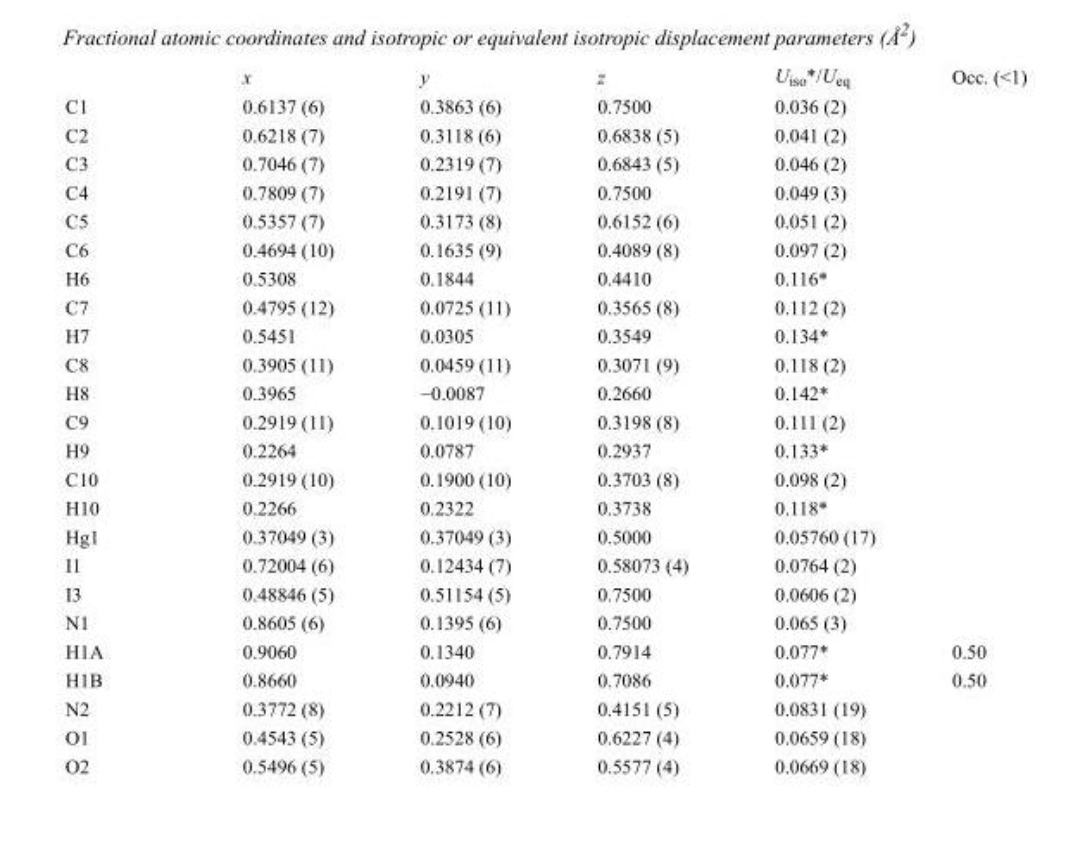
<table><thead><tr><td></td><td>x</td><td>y</td><td>z</td><td>U<sub>iso</sub>*/U<sub>eq</sub></td><td>Occ. (&lt;1)</td></tr></thead><tbody><tr><td>C1</td><td>0.6137 (6)</td><td>0.3863 (6)</td><td>0.7500</td><td>0.036 (2)</td><td></td></tr><tr><td>C2</td><td>0.6218 (7)</td><td>0.3118 (6)</td><td>0.6838 (5)</td><td>0.041 (2)</td><td></td></tr><tr><td>C3</td><td>0.7046 (7)</td><td>0.2319 (7)</td><td>0.6843 (5)</td><td>0.046 (2)</td><td></td></tr><tr><td>C4</td><td>0.7809 (7)</td><td>0.2191 (7)</td><td>0.7500</td><td>0.049 (3)</td><td></td></tr><tr><td>C5</td><td>0.5357 (7)</td><td>0.3173 (8)</td><td>0.6152 (6)</td><td>0.051 (2)</td><td></td></tr><tr><td>C6</td><td>0.4694 (10)</td><td>0.1635 (9)</td><td>0.4089 (8)</td><td>0.097 (2)</td><td></td></tr><tr><td>H6</td><td>0.5308</td><td>0.1844</td><td>0.4410</td><td>0.116*</td><td></td></tr><tr><td>C7</td><td>0.4795 (12)</td><td>0.0725 (11)</td><td>0.3565 (8)</td><td>0.112 (2)</td><td></td></tr><tr><td>H7</td><td>0.5451</td><td>0.0305</td><td>0.3549</td><td>0.134*</td><td></td></tr><tr><td>C8</td><td>0.3905 (11)</td><td>0.0459 (11)</td><td>0.3071 (9)</td><td>0.118 (2)</td><td></td></tr><tr><td>H8</td><td>0.3965</td><td>−0.0087</td><td>0.2660</td><td>0.142*</td><td></td></tr><tr><td>C9</td><td>0.2919 (11)</td><td>0.1019 (10)</td><td>0.3198 (8)</td><td>0.111 (2)</td><td></td></tr><tr><td>H9</td><td>0.2264</td><td>0.0787</td><td>0.2937</td><td>0.133*</td><td></td></tr><tr><td>C10</td><td>0.2919 (10)</td><td>0.1900 (10)</td><td>0.3703 (8)</td><td>0.098 (2)</td><td></td></tr><tr><td>H10</td><td>0.2266</td><td>0.2322</td><td>0.3738</td><td>0.118*</td><td></td></tr><tr><td>Hg1</td><td>0.37049 (3)</td><td>0.37049 (3)</td><td>0.5000</td><td>0.05760 (17)</td><td></td></tr><tr><td>I1</td><td>0.72004 (6)</td><td>0.12434 (7)</td><td>0.58073 (4)</td><td>0.0764 (2)</td><td></td></tr><tr><td>I3</td><td>0.48846 (5)</td><td>0.51154 (5)</td><td>0.7500</td><td>0.0606 (2)</td><td></td></tr><tr><td>N1</td><td>0.8605 (6)</td><td>0.1395 (6)</td><td>0.7500</td><td>0.065 (3)</td><td></td></tr><tr><td>H1A</td><td>0.9060</td><td>0.1340</td><td>0.7914</td><td>0.077*</td><td>0.50</td></tr><tr><td>H1B</td><td>0.8660</td><td>0.0940</td><td>0.7086</td><td>0.077*</td><td>0.50</td></tr><tr><td>N2</td><td>0.3772 (8)</td><td>0.2212 (7)</td><td>0.4151 (5)</td><td>0.0831 (19)</td><td></td></tr><tr><td>O1</td><td>0.4543 (5)</td><td>0.2528 (6)</td><td>0.6227 (4)</td><td>0.0659 (18)</td><td></td></tr><tr><td>O2</td><td>0.5496 (5)</td><td>0.3874 (6)</td><td>0.5577 (4)</td><td>0.0669 (18)</td><td></td></tr></tbody></table>